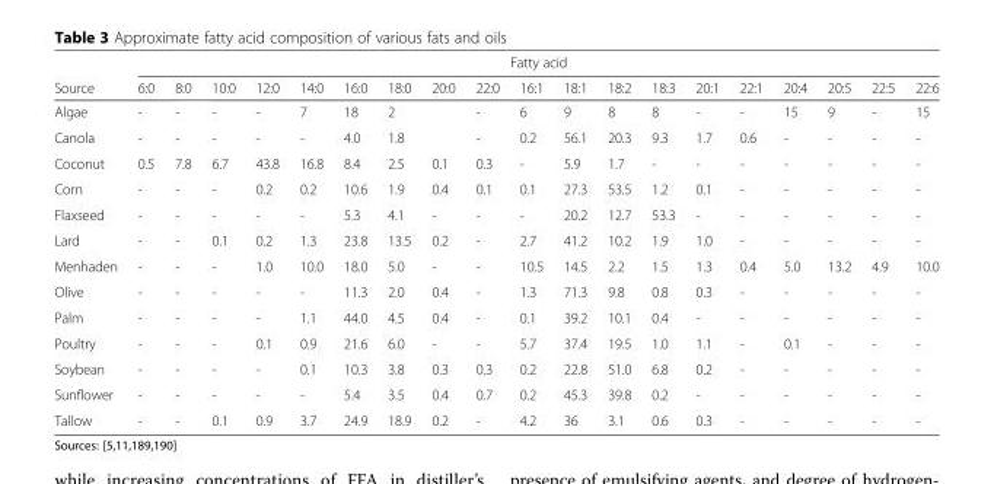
<table><thead><tr><td rowspan="2">Source</td><td colspan="19">Fatty acid</td></tr><tr><td>6:0</td><td>8:0</td><td>10:0</td><td>12:0</td><td>14:0</td><td>16:0</td><td>18:0</td><td>20:0</td><td>22:0</td><td>16:1</td><td>18:1</td><td>18:2</td><td>18:3</td><td>20:1</td><td>22:1</td><td>20:4</td><td>20:5</td><td>22:5</td><td>22:6</td></tr></thead><tbody><tr><td>Algae</td><td>-</td><td>-</td><td>-</td><td>-</td><td>7</td><td>18</td><td>2</td><td></td><td>-</td><td>6</td><td>9</td><td>8</td><td>8</td><td>-</td><td>-</td><td>15</td><td>9</td><td>-</td><td>15</td></tr><tr><td>Canola</td><td>-</td><td>-</td><td>-</td><td>-</td><td>-</td><td>4.0</td><td>1.8</td><td></td><td>-</td><td>0.2</td><td>56.1</td><td>20.3</td><td>9.3</td><td>1.7</td><td>0.6</td><td>-</td><td>-</td><td>-</td><td>-</td></tr><tr><td>Coconut</td><td>0.5</td><td>7.8</td><td>6.7</td><td>43.8</td><td>16.8</td><td>8.4</td><td>2.5</td><td>0.1</td><td>0.3</td><td>-</td><td>5.9</td><td>1.7</td><td>-</td><td>-</td><td>-</td><td>-</td><td>-</td><td>-</td><td>-</td></tr><tr><td>Corn</td><td>-</td><td>-</td><td>-</td><td>0.2</td><td>0.2</td><td>10.6</td><td>1.9</td><td>0.4</td><td>0.1</td><td>0.1</td><td>27.3</td><td>53.5</td><td>1.2</td><td>0.1</td><td>-</td><td>-</td><td>-</td><td>-</td><td>-</td></tr><tr><td>Flaxseed</td><td>-</td><td>-</td><td>-</td><td>-</td><td>-</td><td>5.3</td><td>4.1</td><td>-</td><td>-</td><td>-</td><td>20.2</td><td>12.7</td><td>53.3</td><td>-</td><td>-</td><td>-</td><td>-</td><td>-</td><td>-</td></tr><tr><td>Lard</td><td>-</td><td>-</td><td>0.1</td><td>0.2</td><td>1.3</td><td>23.8</td><td>13.5</td><td>0.2</td><td>-</td><td>2.7</td><td>41.2</td><td>10.2</td><td>1.9</td><td>1.0</td><td>-</td><td>-</td><td>-</td><td>-</td><td>-</td></tr><tr><td>Menhaden</td><td>-</td><td>-</td><td>-</td><td>1.0</td><td>10.0</td><td>18.0</td><td>5.0</td><td>-</td><td>-</td><td>10.5</td><td>14.5</td><td>2.2</td><td>1.5</td><td>1.3</td><td>0.4</td><td>5.0</td><td>13.2</td><td>4.9</td><td>10.0</td></tr><tr><td>Olive</td><td>-</td><td>-</td><td>-</td><td>-</td><td>-</td><td>11.3</td><td>2.0</td><td>0.4</td><td>-</td><td>1.3</td><td>71.3</td><td>9.8</td><td>0.8</td><td>0.3</td><td>-</td><td>-</td><td>-</td><td>-</td><td>-</td></tr><tr><td>Palm</td><td>-</td><td>-</td><td>-</td><td>-</td><td>1.1</td><td>44.0</td><td>4.5</td><td>0.4</td><td>-</td><td>0.1</td><td>39.2</td><td>10.1</td><td>0.4</td><td>-</td><td>-</td><td>-</td><td>-</td><td>-</td><td>-</td></tr><tr><td>Poultry</td><td>-</td><td>-</td><td>-</td><td>0.1</td><td>0.9</td><td>21.6</td><td>6.0</td><td>-</td><td>-</td><td>5.7</td><td>37.4</td><td>19.5</td><td>1.0</td><td>1.1</td><td>-</td><td>0.1</td><td>-</td><td>-</td><td>-</td></tr><tr><td>Soybean</td><td>-</td><td>-</td><td>-</td><td>-</td><td>0.1</td><td>10.3</td><td>3.8</td><td>0.3</td><td>0.3</td><td>0.2</td><td>22.8</td><td>51.0</td><td>6.8</td><td>0.2</td><td>-</td><td>-</td><td>-</td><td>-</td><td>-</td></tr><tr><td>Sunflower</td><td>-</td><td>-</td><td>-</td><td>-</td><td>-</td><td>5.4</td><td>3.5</td><td>0.4</td><td>0.7</td><td>0.2</td><td>45.3</td><td>39.8</td><td>0.2</td><td>-</td><td>-</td><td>-</td><td>-</td><td>-</td><td>-</td></tr><tr><td>Tallow</td><td>-</td><td>-</td><td>0.1</td><td>0.9</td><td>3.7</td><td>24.9</td><td>18.9</td><td>0.2</td><td>-</td><td>4.2</td><td>36</td><td>3.1</td><td>0.6</td><td>0.3</td><td>-</td><td>-</td><td>-</td><td>-</td><td>-</td></tr></tbody></table>